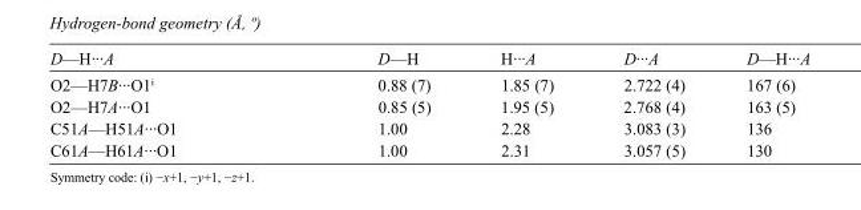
<table><tbody><tr><td>D—H···A</td><td>D—H</td><td>H···A</td><td>D···A</td><td>D—H···A</td></tr><tr><td>O2—H7B···O1<sup>i</sup></td><td>0.88 (7)</td><td>1.85 (7)</td><td>2.722 (4)</td><td>167 (6)</td></tr><tr><td>O2—H7A···O1</td><td>0.85 (5)</td><td>1.95 (5)</td><td>2.768 (4)</td><td>163 (5)</td></tr><tr><td>C51A—H51A···O1</td><td>1.00</td><td>2.28</td><td>3.083 (3)</td><td>136</td></tr><tr><td>C61A—H61A···O1</td><td>1.00</td><td>2.31</td><td>3.057 (5)</td><td>130</td></tr></tbody></table>